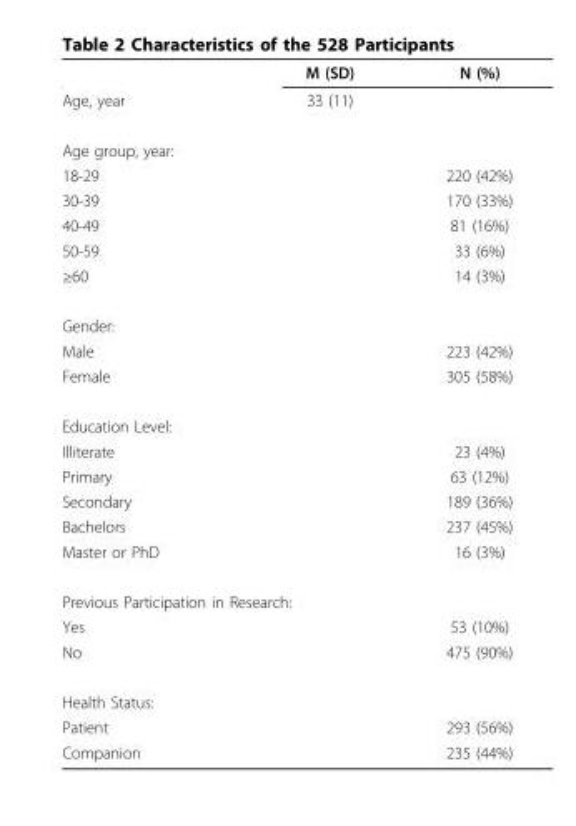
<table><thead><tr><td></td><td>M (SD)</td><td>N (%)</td></tr></thead><tbody><tr><td>Age, year</td><td>33 (11)</td><td></td></tr><tr><td colspan="3">Age group, year:</td></tr><tr><td>18-29</td><td></td><td>220 (42%)</td></tr><tr><td>30-39</td><td></td><td>170 (33%)</td></tr><tr><td>40-49</td><td></td><td>81 (16%)</td></tr><tr><td>50-59</td><td></td><td>33 (6%)</td></tr><tr><td>≥60</td><td></td><td>14 (3%)</td></tr><tr><td colspan="3">Gender:</td></tr><tr><td>Male</td><td></td><td>223 (42%)</td></tr><tr><td>Female</td><td></td><td>305 (58%)</td></tr><tr><td colspan="3">Education Level:</td></tr><tr><td>Illiterate</td><td></td><td>23 (4%)</td></tr><tr><td>Primary</td><td></td><td>63 (12%)</td></tr><tr><td>Secondary</td><td></td><td>189 (36%)</td></tr><tr><td>Bachelors</td><td></td><td>237 (45%)</td></tr><tr><td colspan="2">Master or PhD</td><td>16 (3%)</td></tr><tr><td colspan="3">Previous Participation in Research:</td></tr><tr><td>Yes</td><td></td><td>53 (10%)</td></tr><tr><td>No</td><td></td><td>475 (90%)</td></tr><tr><td colspan="3">Health Status:</td></tr><tr><td>Patient</td><td></td><td>293 (56%)</td></tr><tr><td>Companion</td><td></td><td>235 (44%)</td></tr></tbody></table>